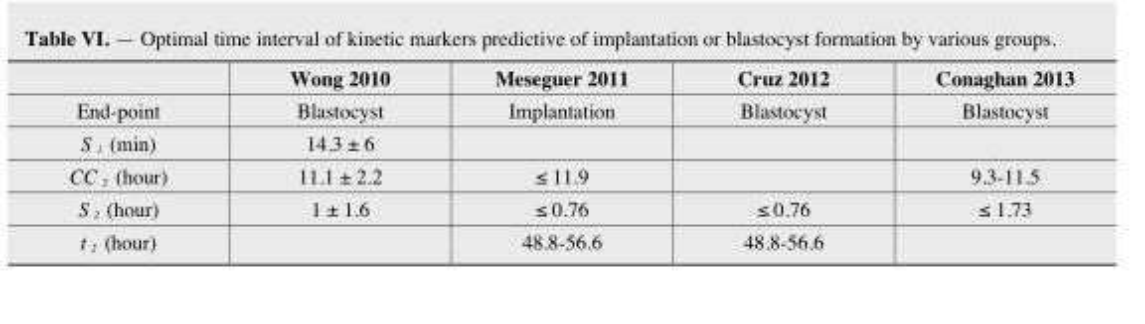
<table><thead><tr><td></td><td>Wong 2010</td><td>Meseguer 2011</td><td>Cruz 2012</td><td>Conaghan 2013</td></tr></thead><tbody><tr><td>End-point</td><td>Blastocyst</td><td>Implantation</td><td>Blastocyst</td><td>Blastocyst</td></tr><tr><td>S <sub>1</sub> (min)</td><td>14.3 ± 6</td><td></td><td></td><td></td></tr><tr><td>CC <sub>2</sub> (hour)</td><td>11.1 ± 2.2</td><td>≤ 11.9</td><td></td><td>9.3-11.5</td></tr><tr><td>S <sub>2</sub> (hour)</td><td>1 ± 1.6</td><td>≤ 0.76</td><td>≤ 0.76</td><td>≤ 1.73</td></tr><tr><td>t <sub>2</sub> (hour)</td><td></td><td>48.8-56.6</td><td>48.8-56.6</td><td></td></tr></tbody></table>